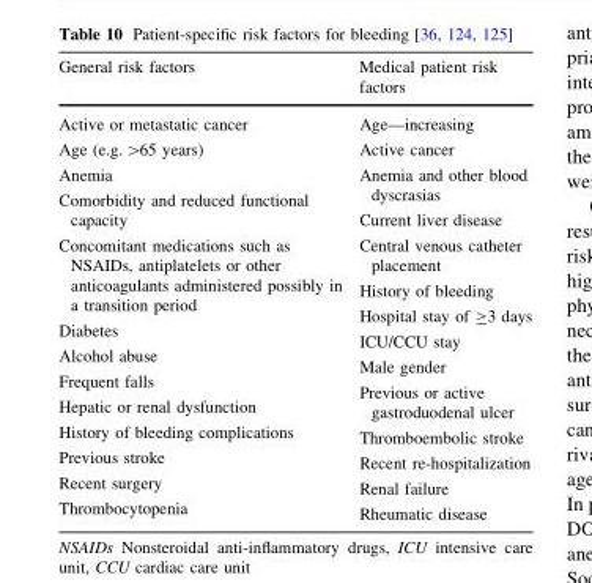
<table><thead><tr><td>General risk factors</td><td>Medical patient risk factors</td></tr></thead><tbody><tr><td>Active or metastatic cancer Age (e.g. &gt;65 years) Anemia Comorbidity and reduced functional capacity Concomitant medications such as NSAIDs, antiplatelets or other anticoagulants administered possibly in a transition period Diabetes Alcohol abuse Frequent falls Hepatic or renal dysfunction History of bleeding complications Previous stroke Recent surgery Thrombocytopenia</td><td>Age—increasing Active cancer Anemia and other blood dyscrasias Current liver disease Central venous catheter placement History of bleeding Hospital stay of ≥3 days ICU/CCU stay Male gender Previous or active gastroduodenal ulcer Thromboembolic stroke Recent re-hospitalization Renal failure Rheumatic disease</td></tr></tbody></table>